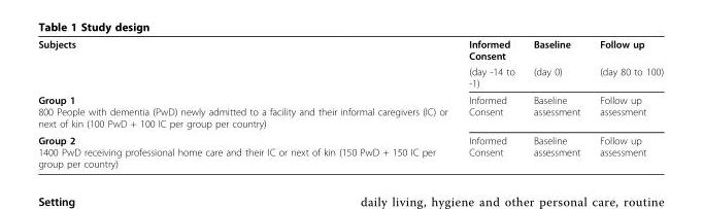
<table><tbody><tr><td rowspan="2">Subjects</td><td>Informed Consent</td><td>Baseline</td><td>Follow up</td></tr><tr><td>(day -14 to -1)</td><td>(day 0)</td><td>(day 80 to 100)</td></tr><tr><td>Group 1 800 People with dementia (PwD) newly admitted to a facility and their informal caregivers (IC) or next of kin (100 PwD + 100 IC per group per country)</td><td>Informed Consent</td><td>Baseline assessment</td><td>Follow up assessment</td></tr><tr><td>Group 2 1400 PwD receiving professional home care and their IC or next of kin (150 PwD + 150 IC per group per country)</td><td>Informed Consent</td><td>Baseline assessment</td><td>Follow up assessment</td></tr></tbody></table>